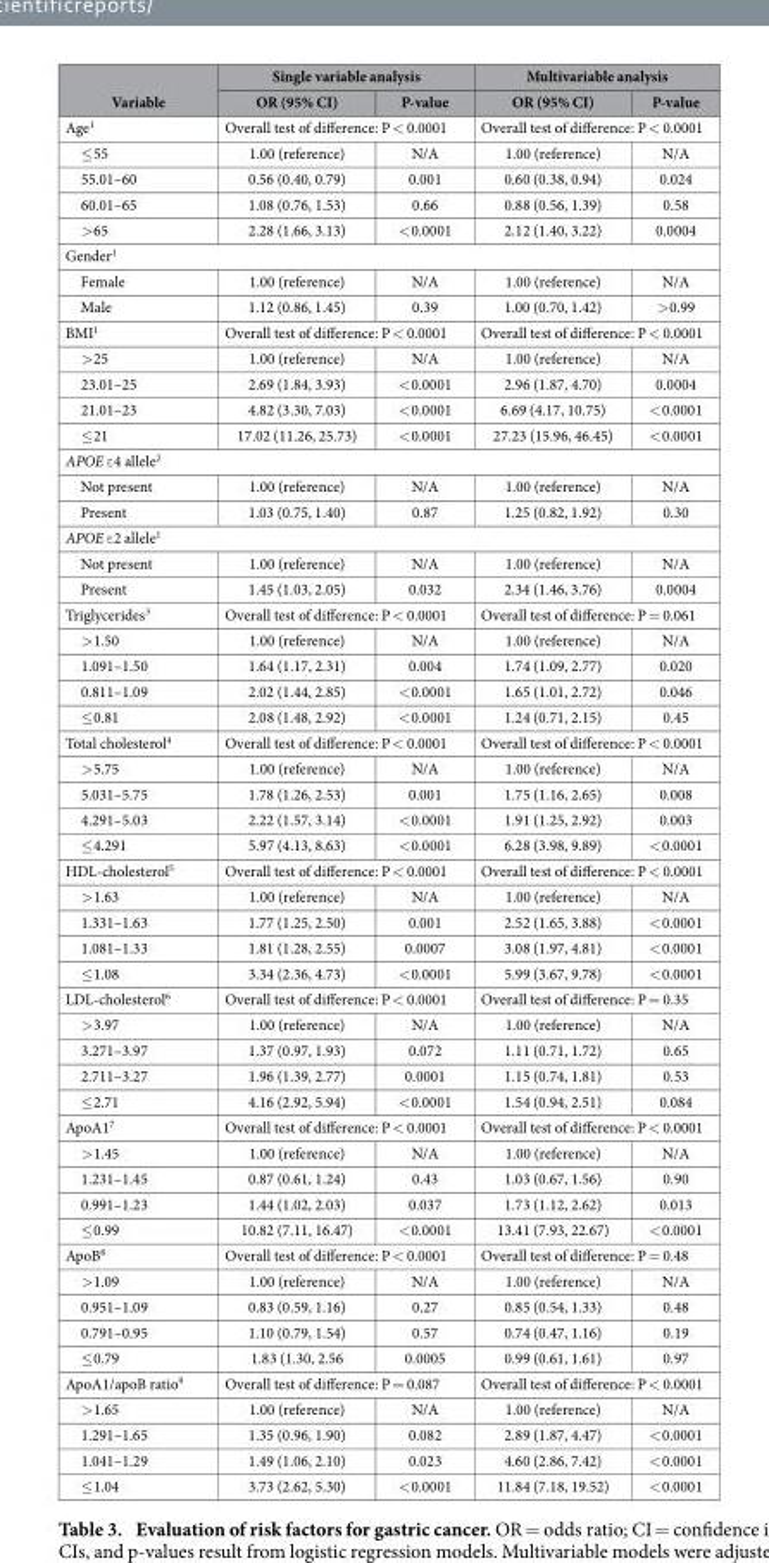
<table><thead><tr><td rowspan="2">Variable</td><td colspan="2">Single variable analysis</td><td colspan="2">Multivariable analysis</td></tr><tr><td>OR (95% CI)</td><td>P-value</td><td>OR (95% CI)</td><td>P-value</td></tr></thead><tbody><tr><td>Age<sup>1</sup></td><td colspan="2">Overall test of difference: P &lt; 0.0001</td><td colspan="2">Overall test of difference: P &lt; 0.0001</td></tr><tr><td>≤ 55</td><td>1.00 (reference)</td><td>N/A</td><td>1.00 (reference)</td><td>N/A</td></tr><tr><td>55.01–60</td><td>0.56 (0.40, 0.79)</td><td>0.001</td><td>0.60 (0.38, 0.94)</td><td>0.024</td></tr><tr><td>60.01–65</td><td>1.08 (0.76, 1.53)</td><td>0.66</td><td>0.88 (0.56, 1.39)</td><td>0.58</td></tr><tr><td>&gt; 65</td><td>2.28 (1.66, 3.13)</td><td>&lt; 0.0001</td><td>2.12 (1.40, 3.22)</td><td>0.0004</td></tr><tr><td colspan="5">Gender<sup>1</sup></td></tr><tr><td>Female</td><td>1.00 (reference)</td><td>N/A</td><td>1.00 (reference)</td><td>N/A</td></tr><tr><td>Male</td><td>1.12 (0.86, 1.45)</td><td>0.39</td><td>1.00 (0.70, 1.42)</td><td>&gt; 0.99</td></tr><tr><td>BMI<sup>1</sup></td><td colspan="2">Overall test of difference: P &lt; 0.0001</td><td colspan="2">Overall test of difference: P &lt; 0.0001</td></tr><tr><td>&gt; 25</td><td>1.00 (reference)</td><td>N/A</td><td>1.00 (reference)</td><td>N/A</td></tr><tr><td>23.01–25</td><td>2.69 (1.84, 3.93)</td><td>&lt; 0.0001</td><td>2.96 (1.87, 4.70)</td><td>0.0004</td></tr><tr><td>21.01–23</td><td>4.82 (3.30, 7.03)</td><td>&lt; 0.0001</td><td>6.69 (4.17, 10.75)</td><td>&lt; 0.0001</td></tr><tr><td>≤ 21</td><td>17.02 (11.26, 25.73)</td><td>&lt; 0.0001</td><td>27.23 (15.96, 46.45)</td><td>&lt; 0.0001</td></tr><tr><td colspan="5">APOE ε 4 allele<sup>2</sup></td></tr><tr><td>Not present</td><td>1.00 (reference)</td><td>N/A</td><td>1.00 (reference)</td><td>N/A</td></tr><tr><td>Present</td><td>1.03 (0.75, 1.40)</td><td>0.87</td><td>1.25 (0.82, 1.92)</td><td>0.30</td></tr><tr><td colspan="5">APOE ε 2 allele<sup>1</sup></td></tr><tr><td>Not present</td><td>1.00 (reference)</td><td>N/A</td><td>1.00 (reference)</td><td>N/A</td></tr><tr><td>Present</td><td>1.45 (1.03, 2.05)</td><td>0.032</td><td>2.34 (1.46, 3.76)</td><td>0.0004</td></tr><tr><td>Triglycerides<sup>3</sup></td><td colspan="2">Overall test of difference: P &lt; 0.0001</td><td colspan="2">Overall test of difference: P = 0.061</td></tr><tr><td>&gt; 1.50</td><td>1.00 (reference)</td><td>N/A</td><td>1.00 (reference)</td><td>N/A</td></tr><tr><td>1.091–1.50</td><td>1.64 (1.17, 2.31)</td><td>0.004</td><td>1.74 (1.09, 2.77)</td><td>0.020</td></tr><tr><td>0.811–1.09</td><td>2.02 (1.44, 2.85)</td><td>&lt; 0.0001</td><td>1.65 (1.01, 2.72)</td><td>0.046</td></tr><tr><td>≤ 0.81</td><td>2.08 (1.48, 2.92)</td><td>&lt; 0.0001</td><td>1.24 (0.71, 2.15)</td><td>0.45</td></tr><tr><td>Total cholesterol<sup>4</sup></td><td colspan="2">Overall test of difference: P &lt; 0.0001</td><td colspan="2">Overall test of difference: P &lt; 0.0001</td></tr><tr><td>&gt; 5.75</td><td>1.00 (reference)</td><td>N/A</td><td>1.00 (reference)</td><td>N/A</td></tr><tr><td>5.031–5.75</td><td>1.78 (1.26, 2.53)</td><td>0.001</td><td>1.75 (1.16, 2.65)</td><td>0.008</td></tr><tr><td>4.291–5.03</td><td>2.22 (1.57, 3.14)</td><td>&lt; 0.0001</td><td>1.91 (1.25, 2.92)</td><td>0.003</td></tr><tr><td>≤ 4.291</td><td>5.97 (4.13, 8.63)</td><td>&lt; 0.0001</td><td>6.28 (3.98, 9.89)</td><td>&lt; 0.0001</td></tr><tr><td>HDL-cholesterol<sup>5</sup></td><td colspan="2">Overall test of difference: P &lt; 0.0001</td><td colspan="2">Overall test of difference: P &lt; 0.0001</td></tr><tr><td>&gt; 1.63</td><td>1.00 (reference)</td><td>N/A</td><td>1.00 (reference)</td><td>N/A</td></tr><tr><td>1.331–1.63</td><td>1.77 (1.25, 2.50)</td><td>0.001</td><td>2.52 (1.65, 3.88)</td><td>&lt; 0.0001</td></tr><tr><td>1.081–1.33</td><td>1.81 (1.28, 2.55)</td><td>0.0007</td><td>3.08 (1.97, 4.81)</td><td>&lt; 0.0001</td></tr><tr><td>≤ 1.08</td><td>3.34 (2.36, 4.73)</td><td>&lt; 0.0001</td><td>5.99 (3.67, 9.78)</td><td>&lt; 0.0001</td></tr><tr><td>LDL-cholesterol<sup>6</sup></td><td colspan="2">Overall test of difference: P &lt; 0.0001</td><td colspan="2">Overall test of difference: P = 0.35</td></tr><tr><td>&gt; 3.97</td><td>1.00 (reference)</td><td>N/A</td><td>1.00 (reference)</td><td>N/A</td></tr><tr><td>3.271–3.97</td><td>1.37 (0.97, 1.93)</td><td>0.072</td><td>1.11 (0.71, 1.72)</td><td>0.65</td></tr><tr><td>2.711–3.27</td><td>1.96 (1.39, 2.77)</td><td>0.0001</td><td>1.15 (0.74, 1.81)</td><td>0.53</td></tr><tr><td>≤ 2.71</td><td>4.16 (2.92, 5.94)</td><td>&lt; 0.0001</td><td>1.54 (0.94, 2.51)</td><td>0.084</td></tr><tr><td>ApoA1<sup>7</sup></td><td colspan="2">Overall test of difference: P &lt; 0.0001</td><td colspan="2">Overall test of difference: P &lt; 0.0001</td></tr><tr><td>&gt; 1.45</td><td>1.00 (reference)</td><td>N/A</td><td>1.00 (reference)</td><td>N/A</td></tr><tr><td>1.231–1.45</td><td>0.87 (0.61, 1.24)</td><td>0.43</td><td>1.03 (0.67, 1.56)</td><td>0.90</td></tr><tr><td>0.991–1.23</td><td>1.44 (1.02, 2.03)</td><td>0.037</td><td>1.73 (1.12, 2.62)</td><td>0.013</td></tr><tr><td>≤ 0.99</td><td>10.82 (7.11, 16.47)</td><td>&lt; 0.0001</td><td>13.41 (7.93, 22.67)</td><td>&lt; 0.0001</td></tr><tr><td>ApoB<sup>8</sup></td><td colspan="2">Overall test of difference: P &lt; 0.0001</td><td colspan="2">Overall test of difference: P = 0.48</td></tr><tr><td>&gt; 1.09</td><td>1.00 (reference)</td><td>N/A</td><td>1.00 (reference)</td><td>N/A</td></tr><tr><td>0.951–1.09</td><td>0.83 (0.59, 1.16)</td><td>0.27</td><td>0.85 (0.54, 1.33)</td><td>0.48</td></tr><tr><td>0.791–0.95</td><td>1.10 (0.79, 1.54)</td><td>0.57</td><td>0.74 (0.47, 1.16)</td><td>0.19</td></tr><tr><td>≤ 0.79</td><td>1.83 (1.30, 2.56</td><td>0.0005</td><td>0.99 (0.61, 1.61)</td><td>0.97</td></tr><tr><td>ApoA1/apoB ratio<sup>9</sup></td><td colspan="2">Overall test of difference: P = 0.087</td><td colspan="2">Overall test of difference: P &lt; 0.0001</td></tr><tr><td>&gt; 1.65</td><td>1.00 (reference)</td><td>N/A</td><td>1.00 (reference)</td><td>N/A</td></tr><tr><td>1.291–1.65</td><td>1.35 (0.96, 1.90)</td><td>0.082</td><td>2.89 (1.87, 4.47)</td><td>&lt; 0.0001</td></tr><tr><td>1.041–1.29</td><td>1.49 (1.06, 2.10)</td><td>0.023</td><td>4.60 (2.86, 7.42)</td><td>&lt; 0.0001</td></tr><tr><td>≤ 1.04</td><td>3.73 (2.62, 5.30)</td><td>&lt; 0.0001</td><td>11.84 (7.18, 19.52)</td><td>&lt; 0.0001</td></tr></tbody></table>